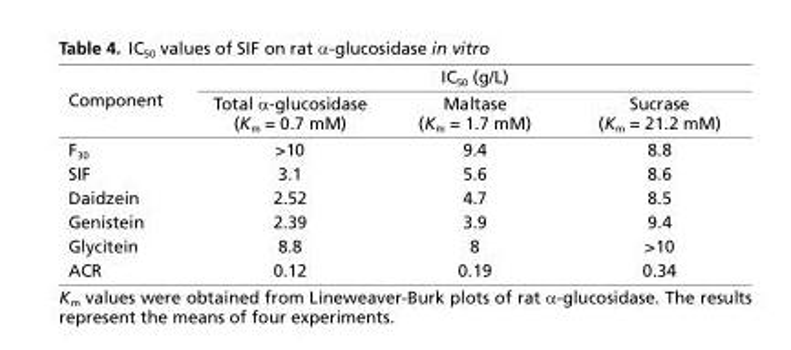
<table><thead><tr><td rowspan="2">Component</td><td colspan="3">IC<sub>50</sub> (g/L)</td></tr><tr><td>Total α-glucosidase (K<sub>m</sub> = 0.7 mM)</td><td>Maltase (K<sub>m</sub> = 1.7 mM)</td><td>Sucrase (K<sub>m</sub> = 21.2 mM)</td></tr></thead><tbody><tr><td>F<sub>30</sub></td><td>&gt;10</td><td>9.4</td><td>8.8</td></tr><tr><td>SIF</td><td>3.1</td><td>5.6</td><td>8.6</td></tr><tr><td>Daidzein</td><td>2.52</td><td>4.7</td><td>8.5</td></tr><tr><td>Genistein</td><td>2.39</td><td>3.9</td><td>9.4</td></tr><tr><td>Glycitein</td><td>8.8</td><td>8</td><td>&gt;10</td></tr><tr><td>ACR</td><td>0.12</td><td>0.19</td><td>0.34</td></tr></tbody></table>